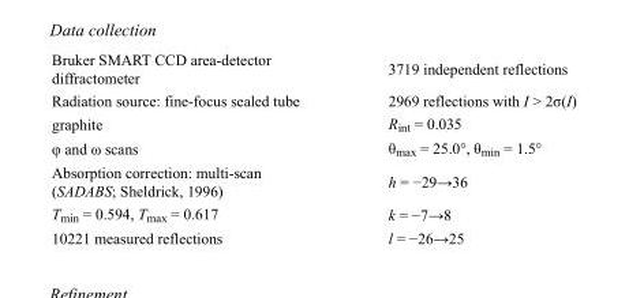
<table><tbody><tr><td>Bruker SMART CCD area-detector diffractometer</td><td>3719 independent reflections</td></tr><tr><td>Radiation source: fine-focus sealed tube</td><td>2969 reflections with I &gt; 2σ(I)</td></tr><tr><td>graphite</td><td>R<sub>int</sub> = 0.035</td></tr><tr><td>φ and ω scans</td><td>θ<sub>max</sub> = 25.0°, θ<sub>min</sub> = 1.5°</td></tr><tr><td>Absorption correction: multi-scan (SADABS; Sheldrick, 1996)</td><td>h = −29→36</td></tr><tr><td>T<sub>min</sub> = 0.594, T<sub>max</sub> = 0.617</td><td>k = −7→8</td></tr><tr><td>10221 measured reflections</td><td>l = −26→25</td></tr></tbody></table>